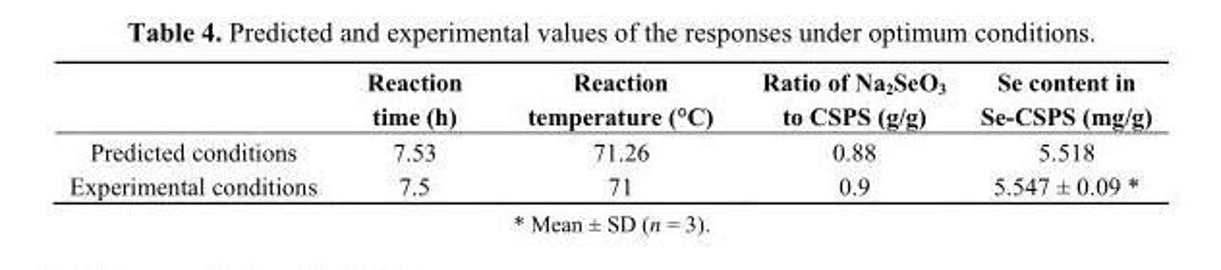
<table><thead><tr><td></td><td>Reaction time (h)</td><td>Reaction temperature (°C)</td><td>Ratio of Na<sub>2</sub>SeO<sub>3</sub> to CSPS (g/g)</td><td>Se content in Se-CSPS (mg/g)</td></tr></thead><tbody><tr><td>Predicted conditions</td><td>7.53</td><td>71.26</td><td>0.88</td><td>5.518</td></tr><tr><td>Experimental conditions</td><td>7.5</td><td>71</td><td>0.9</td><td>5.547 ± 0.09 *</td></tr></tbody></table>